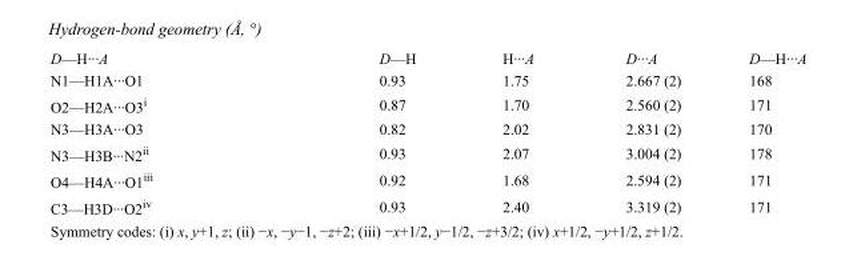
<table><tbody><tr><td>D—H···A</td><td>D—H</td><td>H···A</td><td>D···A</td><td>D—H···A</td></tr><tr><td>N1—H1A···O1</td><td>0.93</td><td>1.75</td><td>2.667 (2)</td><td>168</td></tr><tr><td>O2—H2A···O3<sup>i</sup></td><td>0.87</td><td>1.70</td><td>2.560 (2)</td><td>171</td></tr><tr><td>N3—H3A···O3</td><td>0.82</td><td>2.02</td><td>2.831 (2)</td><td>170</td></tr><tr><td>N3—H3B···N2<sup>ii</sup></td><td>0.93</td><td>2.07</td><td>3.004 (2)</td><td>178</td></tr><tr><td>O4—H4A···O1<sup>iii</sup></td><td>0.92</td><td>1.68</td><td>2.594 (2)</td><td>171</td></tr><tr><td>C3—H3D···O2<sup>iv</sup></td><td>0.93</td><td>2.40</td><td>3.319 (2)</td><td>171</td></tr></tbody></table>